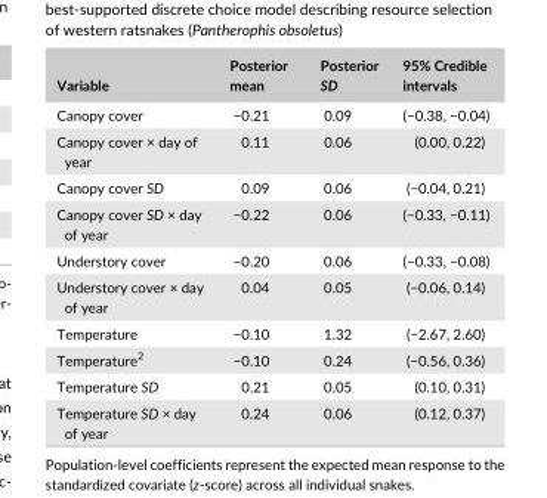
<table><thead><tr><td>Variable</td><td>Posterior mean</td><td>Posterior SD</td><td>95% Credible intervals</td></tr></thead><tbody><tr><td>Canopy cover</td><td>−0.21</td><td>0.09</td><td>(−0.38, −0.04)</td></tr><tr><td>Canopy cover × day of year</td><td>0.11</td><td>0.06</td><td>(0.00, 0.22)</td></tr><tr><td>Canopy cover SD</td><td>0.09</td><td>0.06</td><td>(−0.04, 0.21)</td></tr><tr><td>Canopy cover SD × day of year</td><td>−0.22</td><td>0.06</td><td>(−0.33, −0.11)</td></tr><tr><td>Understory cover</td><td>−0.20</td><td>0.06</td><td>(−0.33, −0.08)</td></tr><tr><td>Understory cover × day of year</td><td>0.04</td><td>0.05</td><td>(−0.06, 0.14)</td></tr><tr><td>Temperature</td><td>−0.10</td><td>1.32</td><td>(−2.67, 2.60)</td></tr><tr><td>Temperature<sup>2</sup></td><td>−0.10</td><td>0.24</td><td>(−0.56, 0.36)</td></tr><tr><td>Temperature SD</td><td>0.21</td><td>0.05</td><td>(0.10, 0.31)</td></tr><tr><td>Temperature SD × day of year</td><td>0.24</td><td>0.06</td><td>(0.12, 0.37)</td></tr></tbody></table>